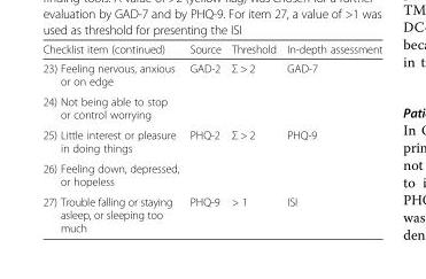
<table><thead><tr><td>Checklist item (continued)</td><td>Source</td><td>Threshold</td><td>In-depth assessment</td></tr></thead><tbody><tr><td>23) Feeling nervous, anxious or on edge</td><td rowspan="2">GAD-2</td><td rowspan="2">Σ &gt; 2</td><td rowspan="2">GAD-7</td></tr><tr><td>24) Not being able to stop or control worrying</td></tr><tr><td>25) Little interest or pleasure in doing things</td><td rowspan="2">PHQ-2</td><td rowspan="2">Σ &gt; 2</td><td rowspan="2">PHQ-9</td></tr><tr><td>26) Feeling down, depressed, or hopeless</td></tr><tr><td>27) Trouble falling or staying asleep, or sleeping too much</td><td>PHQ-9</td><td>&gt; 1</td><td>ISI</td></tr></tbody></table>